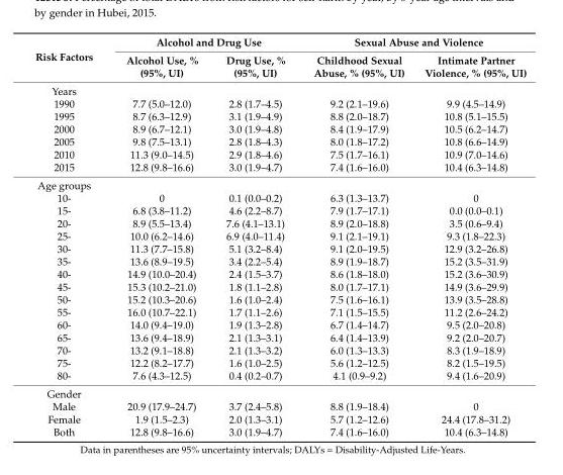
<table><thead><tr><td rowspan="2">Risk Factors</td><td colspan="2">Alcohol and Drug Use</td><td colspan="2">Sexual Abuse and Violence</td></tr><tr><td>Alcohol Use, % (95%, UI)</td><td>Drug Use, % (95%, UI)</td><td>Childhood Sexual Abuse, % (95%, UI)</td><td>Intimate Partner Violence, % (95%, UI)</td></tr></thead><tbody><tr><td colspan="5">Years</td></tr><tr><td>1990</td><td>7.7 (5.0–12.0)</td><td>2.8 (1.7–4.5)</td><td>9.2 (2.1–19.6)</td><td>9.9 (4.5–14.9)</td></tr><tr><td>1995</td><td>8.7 (6.3–12.9)</td><td>3.1 (1.9–4.9)</td><td>8.8 (2.0–18.7)</td><td>10.8 (5.1–15.5)</td></tr><tr><td>2000</td><td>8.9 (6.7–12.1)</td><td>3.0 (1.9–4.8)</td><td>8.4 (1.9–17.9)</td><td>10.5 (6.2–14.7)</td></tr><tr><td>2005</td><td>9.8 (7.5–13.1)</td><td>2.8 (1.8–4.3)</td><td>8.0 (1.8–17.2)</td><td>10.8 (6.6–14.9)</td></tr><tr><td>2010</td><td>11.3 (9.0–14.5)</td><td>2.9 (1.8–4.6)</td><td>7.5 (1.7–16.1)</td><td>10.9 (7.0–14.6)</td></tr><tr><td>2015</td><td>12.8 (9.8–16.6)</td><td>3.0 (1.9–4.7)</td><td>7.4 (1.6–16.0)</td><td>10.4 (6.3–14.8)</td></tr><tr><td colspan="5">Age groups</td></tr><tr><td>10-</td><td>0</td><td>0.1 (0.0–0.2)</td><td>6.3 (1.3–13.7)</td><td>0</td></tr><tr><td>15-</td><td>6.8 (3.8–11.2)</td><td>4.6 (2.2–8.7)</td><td>7.9 (1.7–17.1)</td><td>0.0 (0.0–0.1)</td></tr><tr><td>20-</td><td>8.9 (5.5–13.4)</td><td>7.6 (4.1–13.1)</td><td>8.9 (2.0–18.8)</td><td>3.5 (0.6–9.4)</td></tr><tr><td>25-</td><td>10.0 (6.2–14.6)</td><td>6.9 (4.0–11.4)</td><td>9.1 (2.1–19.1)</td><td>9.3 (1.8–22.3)</td></tr><tr><td>30-</td><td>11.3 (7.7–15.8)</td><td>5.1 (3.2–8.4)</td><td>9.1 (2.0–19.5)</td><td>12.9 (3.2–26.8)</td></tr><tr><td>35-</td><td>13.6 (8.9–19.5)</td><td>3.4 (2.2–5.4)</td><td>8.9 (1.9–18.7)</td><td>15.2 (3.5–31.9)</td></tr><tr><td>40-</td><td>14.9 (10.0–20.4)</td><td>2.4 (1.5–3.7)</td><td>8.6 (1.8–18.0)</td><td>15.2 (3.6–30.9)</td></tr><tr><td>45-</td><td>15.3 (10.2–21.0)</td><td>1.8 (1.1–2.8)</td><td>8.0 (1.7–17.1)</td><td>14.9 (3.6–29.9)</td></tr><tr><td>50-</td><td>15.2 (10.3–20.6)</td><td>1.6 (1.0–2.4)</td><td>7.5 (1.6–16.1)</td><td>13.9 (3.5–28.8)</td></tr><tr><td>55-</td><td>16.0 (10.7–22.1)</td><td>1.7 (1.1–2.6)</td><td>7.1 (1.5–15.5)</td><td>11.2 (2.6–24.2)</td></tr><tr><td>60-</td><td>14.0 (9.4–19.0)</td><td>1.9 (1.3–2.8)</td><td>6.7 (1.4–14.7)</td><td>9.5 (2.0–20.8)</td></tr><tr><td>65-</td><td>13.6 (9.4–18.9)</td><td>2.1 (1.3–3.1)</td><td>6.4 (1.4–13.9)</td><td>9.2 (2.0–20.7)</td></tr><tr><td>70-</td><td>13.2 (9.1–18.8)</td><td>2.1 (1.3–3.2)</td><td>6.0 (1.3–13.3)</td><td>8.3 (1.9–18.9)</td></tr><tr><td>75-</td><td>12.2 (8.2–17.7)</td><td>1.6 (1.0–2.5)</td><td>5.6 (1.2–12.5)</td><td>8.2 (1.5–19.5)</td></tr><tr><td>80-</td><td>7.6 (4.3–12.5)</td><td>0.4 (0.2–0.7)</td><td>4.1 (0.9–9.2)</td><td>9.4 (1.6–20.9)</td></tr><tr><td colspan="5">Gender</td></tr><tr><td>Male</td><td>20.9 (17.9–24.7)</td><td>3.7 (2.4–5.8)</td><td>8.8 (1.9–18.4)</td><td>0</td></tr><tr><td>Female</td><td>1.9 (1.5–2.3)</td><td>2.0 (1.3–3.1)</td><td>5.7 (1.2–12.6)</td><td>24.4 (17.8–31.2)</td></tr><tr><td>Both</td><td>12.8 (9.8–16.6)</td><td>3.0 (1.9–4.7)</td><td>7.4 (1.6–16.0)</td><td>10.4 (6.3–14.8)</td></tr></tbody></table>